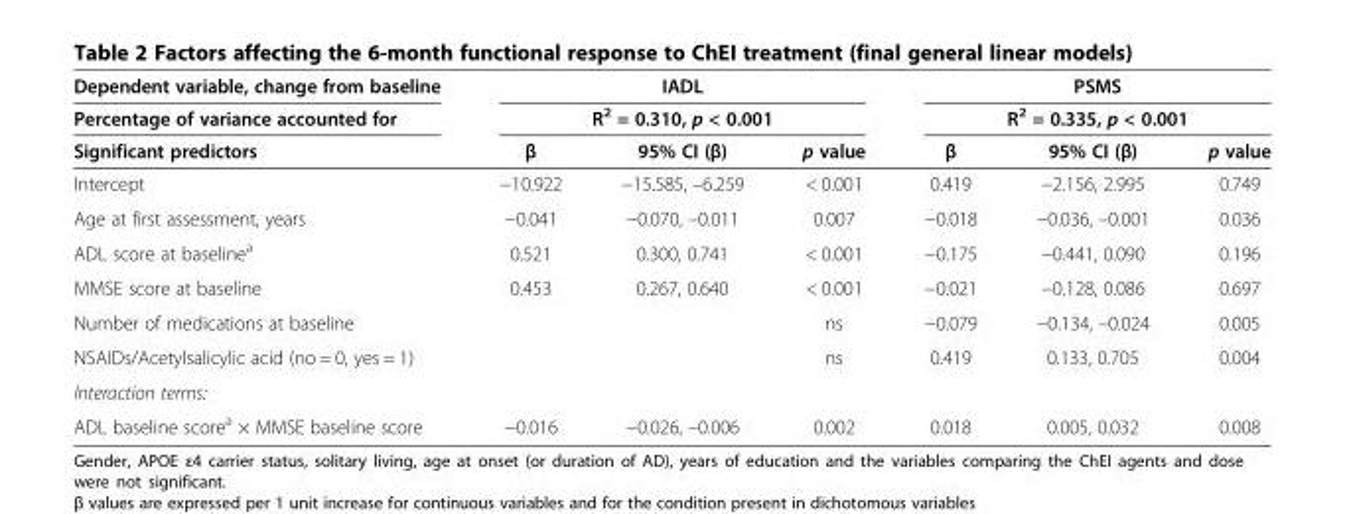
<table><thead><tr><td rowspan="3">Dependent variable, change from baseline Percentage of variance accounted for Significant predictors</td><td rowspan="2" colspan="3">IADL R<sup>2</sup> = 0.310, p &lt; 0.001</td><td rowspan="2" colspan="3">PSMS R<sup>2</sup> = 0.335, p &lt; 0.001</td></tr><tr></tr><tr><td>β</td><td>95% CI (β)</td><td>p value</td><td>β</td><td>95% CI (β)</td><td>p value</td></tr></thead><tbody><tr><td>Intercept</td><td>−10.922</td><td>−15.585, –6.259</td><td>&lt; 0.001</td><td>0.419</td><td>−2.156, 2.995</td><td>0.749</td></tr><tr><td>Age at first assessment, years</td><td>−0.041</td><td>−0.070, –0.011</td><td>0.007</td><td>−0.018</td><td>−0.036, –0.001</td><td>0.036</td></tr><tr><td>ADL score at baseline<sup>a</sup></td><td>0.521</td><td>0.300, 0.741</td><td>&lt; 0.001</td><td>−0.175</td><td>−0.441, 0.090</td><td>0.196</td></tr><tr><td>MMSE score at baseline</td><td>0.453</td><td>0.267, 0.640</td><td>&lt; 0.001</td><td>−0.021</td><td>−0.128, 0.086</td><td>0.697</td></tr><tr><td>Number of medications at baseline</td><td></td><td></td><td>ns</td><td>−0.079</td><td>−0.134, –0.024</td><td>0.005</td></tr><tr><td>NSAIDs/Acetylsalicylic acid (no = 0, yes = 1)</td><td></td><td></td><td>ns</td><td>0.419</td><td>0.133, 0.705</td><td>0.004</td></tr><tr><td colspan="7">Interaction terms:</td></tr><tr><td>ADL baseline score<sup>a</sup> × MMSE baseline score</td><td>−0.016</td><td>−0.026, –0.006</td><td>0.002</td><td>0.018</td><td>0.005, 0.032</td><td>0.008</td></tr></tbody></table>